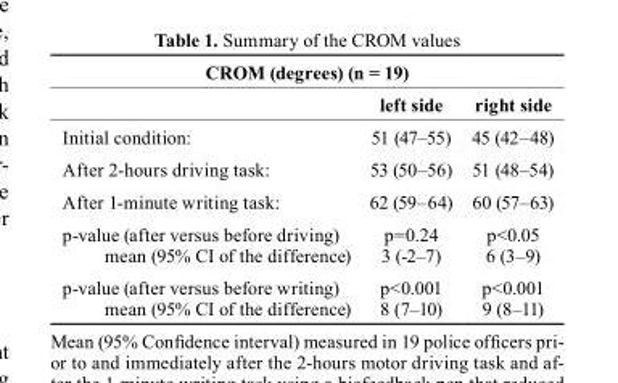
<table><thead><tr><td colspan="3">CROM (degrees) (n = 19)</td></tr><tr><td></td><td>left side</td><td>right side</td></tr></thead><tbody><tr><td>Initial condition:</td><td>51 (47–55)</td><td>45 (42–48)</td></tr><tr><td>After 2-hours driving task:</td><td>53 (50–56)</td><td>51 (48–54)</td></tr><tr><td>After 1-minute writing task:</td><td>62 (59–64)</td><td>60 (57–63)</td></tr><tr><td>p-value (after versus before driving)</td><td>p=0.24</td><td>p&lt;0.05</td></tr><tr><td>mean (95% CI of the difference)</td><td>3 (-2–7)</td><td>6 (3–9)</td></tr><tr><td>p-value (after versus before writing)</td><td>p&lt;0.001</td><td>p&lt;0.001</td></tr><tr><td>mean (95% CI of the difference)</td><td>8 (7–10)</td><td>9 (8–11)</td></tr></tbody></table>